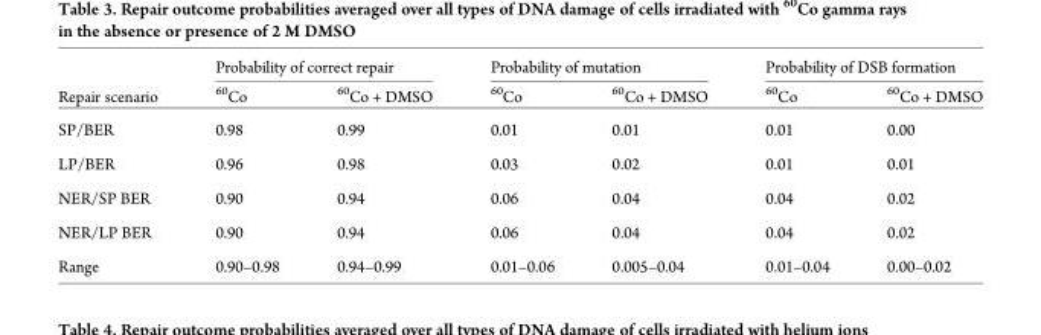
<table><thead><tr><td rowspan="2">Repair scenario</td><td colspan="2">Probability of correct repair</td><td colspan="2">Probability of mutation</td><td colspan="2">Probability of DSB formation</td></tr><tr><td><sup>60</sup>Co</td><td><sup>60</sup>Co + DMSO</td><td><sup>60</sup>Co</td><td><sup>60</sup>Co + DMSO</td><td><sup>60</sup>Co</td><td><sup>60</sup>Co + DMSO</td></tr></thead><tbody><tr><td>SP/BER</td><td>0.98</td><td>0.99</td><td>0.01</td><td>0.01</td><td>0.01</td><td>0.00</td></tr><tr><td>LP/BER</td><td>0.96</td><td>0.98</td><td>0.03</td><td>0.02</td><td>0.01</td><td>0.01</td></tr><tr><td>NER/SP BER</td><td>0.90</td><td>0.94</td><td>0.06</td><td>0.04</td><td>0.04</td><td>0.02</td></tr><tr><td>NER/LP BER</td><td>0.90</td><td>0.94</td><td>0.06</td><td>0.04</td><td>0.04</td><td>0.02</td></tr><tr><td>Range</td><td>0.90–0.98</td><td>0.94–0.99</td><td>0.01–0.06</td><td>0.005–0.04</td><td>0.01–0.04</td><td>0.00–0.02</td></tr></tbody></table>